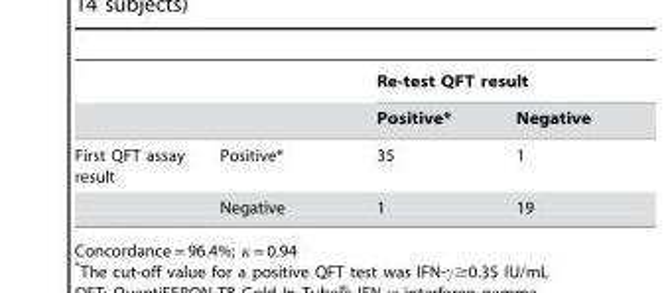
<table><thead><tr><td rowspan="2"></td><td rowspan="2"></td><td colspan="2">Re-test QFT result</td></tr><tr><td>Positive*</td><td>Negative</td></tr></thead><tbody><tr><td rowspan="2">First QFT assay result</td><td>Positive*</td><td>35</td><td>1</td></tr><tr><td>Negative</td><td>1</td><td>19</td></tr></tbody></table>